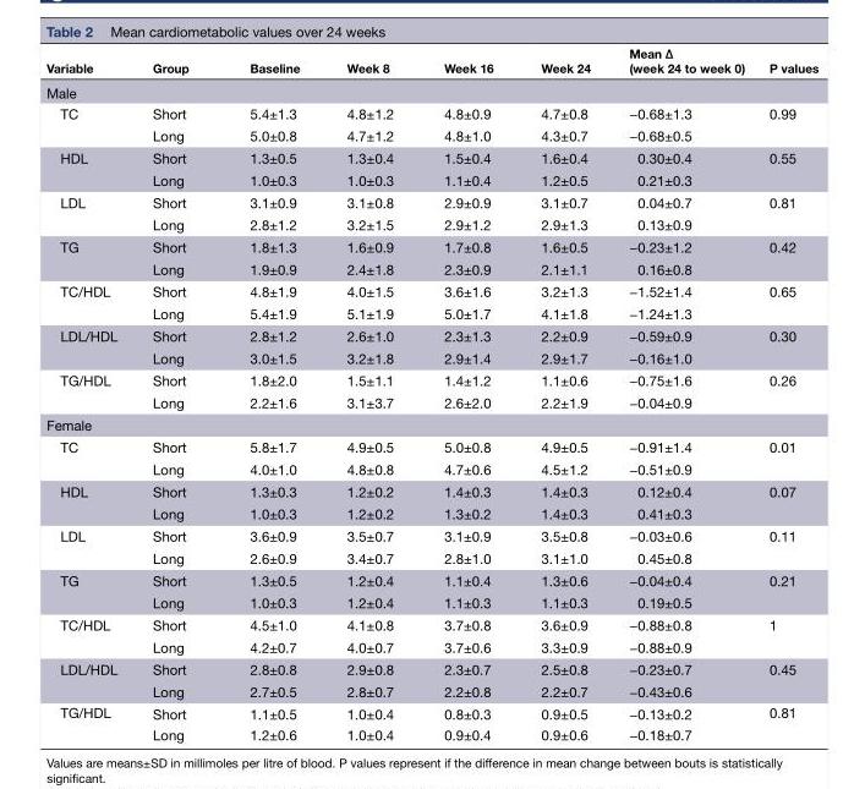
<table><thead><tr><td>Variable</td><td>Group</td><td>Baseline</td><td>Week 8</td><td>Week 16</td><td>Week 24</td><td>Mean Δ (week 24 to week 0)</td><td>P values</td></tr></thead><tbody><tr><td colspan="8">Male</td></tr><tr><td rowspan="2">TC</td><td>Short</td><td>5.4±1.3</td><td>4.8±1.2</td><td>4.8±0.9</td><td>4.7±0.8</td><td>−0.68±1.3</td><td rowspan="2">0.99</td></tr><tr><td>Long</td><td>5.0±0.8</td><td>4.7±1.2</td><td>4.8±1.0</td><td>4.3±0.7</td><td>−0.68±0.5</td></tr><tr><td rowspan="2">HDL</td><td>Short</td><td>1.3±0.5</td><td>1.3±0.4</td><td>1.5±0.4</td><td>1.6±0.4</td><td>0.30±0.4</td><td rowspan="2">0.55</td></tr><tr><td>Long</td><td>1.0±0.3</td><td>1.0±0.3</td><td>1.1±0.4</td><td>1.2±0.5</td><td>0.21±0.3</td></tr><tr><td rowspan="2">LDL</td><td>Short</td><td>3.1±0.9</td><td>3.1±0.8</td><td>2.9±0.9</td><td>3.1±0.7</td><td>0.04±0.7</td><td rowspan="2">0.81</td></tr><tr><td>Long</td><td>2.8±1.2</td><td>3.2±1.5</td><td>2.9±1.2</td><td>2.9±1.3</td><td>0.13±0.9</td></tr><tr><td rowspan="2">TG</td><td>Short</td><td>1.8±1.3</td><td>1.6±0.9</td><td>1.7±0.8</td><td>1.6±0.5</td><td>−0.23±1.2</td><td rowspan="2">0.42</td></tr><tr><td>Long</td><td>1.9±0.9</td><td>2.4±1.8</td><td>2.3±0.9</td><td>2.1±1.1</td><td>0.16±0.8</td></tr><tr><td rowspan="2">TC/HDL</td><td>Short</td><td>4.8±1.9</td><td>4.0±1.5</td><td>3.6±1.6</td><td>3.2±1.3</td><td>−1.52±1.4</td><td rowspan="2">0.65</td></tr><tr><td>Long</td><td>5.4±1.9</td><td>5.1±1.9</td><td>5.0±1.7</td><td>4.1±1.8</td><td>−1.24±1.3</td></tr><tr><td rowspan="2">LDL/HDL</td><td>Short</td><td>2.8±1.2</td><td>2.6±1.0</td><td>2.3±1.3</td><td>2.2±0.9</td><td>−0.59±0.9</td><td rowspan="2">0.30</td></tr><tr><td>Long</td><td>3.0±1.5</td><td>3.2±1.8</td><td>2.9±1.4</td><td>2.9±1.7</td><td>−0.16±1.0</td></tr><tr><td rowspan="2">TG/HDL</td><td>Short</td><td>1.8±2.0</td><td>1.5±1.1</td><td>1.4±1.2</td><td>1.1±0.6</td><td>−0.75±1.6</td><td rowspan="2">0.26</td></tr><tr><td>Long</td><td>2.2±1.6</td><td>3.1±3.7</td><td>2.6±2.0</td><td>2.2±1.9</td><td>−0.04±0.9</td></tr><tr><td colspan="8">Female</td></tr><tr><td rowspan="2">TC</td><td>Short</td><td>5.8±1.7</td><td>4.9±0.5</td><td>5.0±0.8</td><td>4.9±0.5</td><td>−0.91±1.4</td><td rowspan="2">0.01</td></tr><tr><td>Long</td><td>4.0±1.0</td><td>4.8±0.8</td><td>4.7±0.6</td><td>4.5±1.2</td><td>−0.51±0.9</td></tr><tr><td rowspan="2">HDL</td><td>Short</td><td>1.3±0.3</td><td>1.2±0.2</td><td>1.4±0.3</td><td>1.4±0.3</td><td>0.12±0.4</td><td rowspan="2">0.07</td></tr><tr><td>Long</td><td>1.0±0.3</td><td>1.2±0.2</td><td>1.3±0.2</td><td>1.4±0.3</td><td>0.41±0.3</td></tr><tr><td rowspan="2">LDL</td><td>Short</td><td>3.6±0.9</td><td>3.5±0.7</td><td>3.1±0.9</td><td>3.5±0.8</td><td>−0.03±0.6</td><td rowspan="2">0.11</td></tr><tr><td>Long</td><td>2.6±0.9</td><td>3.4±0.7</td><td>2.8±1.0</td><td>3.1±1.0</td><td>0.45±0.8</td></tr><tr><td rowspan="2">TG</td><td>Short</td><td>1.3±0.5</td><td>1.2±0.4</td><td>1.1±0.4</td><td>1.3±0.6</td><td>−0.04±0.4</td><td rowspan="2">0.21</td></tr><tr><td>Long</td><td>1.0±0.3</td><td>1.2±0.4</td><td>1.1±0.3</td><td>1.1±0.3</td><td>0.19±0.5</td></tr><tr><td rowspan="2">TC/HDL</td><td>Short</td><td>4.5±1.0</td><td>4.1±0.8</td><td>3.7±0.8</td><td>3.6±0.9</td><td>−0.88±0.8</td><td rowspan="2">1</td></tr><tr><td>Long</td><td>4.2±0.7</td><td>4.0±0.7</td><td>3.7±0.6</td><td>3.3±0.9</td><td>−0.88±0.9</td></tr><tr><td rowspan="2">LDL/HDL</td><td>Short</td><td>2.8±0.8</td><td>2.9±0.8</td><td>2.3±0.7</td><td>2.5±0.8</td><td>−0.23±0.7</td><td rowspan="2">0.45</td></tr><tr><td>Long</td><td>2.7±0.5</td><td>2.8±0.7</td><td>2.2±0.8</td><td>2.2±0.7</td><td>−0.43±0.6</td></tr><tr><td rowspan="2">TG/HDL</td><td>Short</td><td>1.1±0.5</td><td>1.0±0.4</td><td>0.8±0.3</td><td>0.9±0.5</td><td>−0.13±0.2</td><td rowspan="2">0.81</td></tr><tr><td>Long</td><td>1.2±0.6</td><td>1.0±0.4</td><td>0.9±0.4</td><td>0.9±0.6</td><td>−0.18±0.7</td></tr></tbody></table>